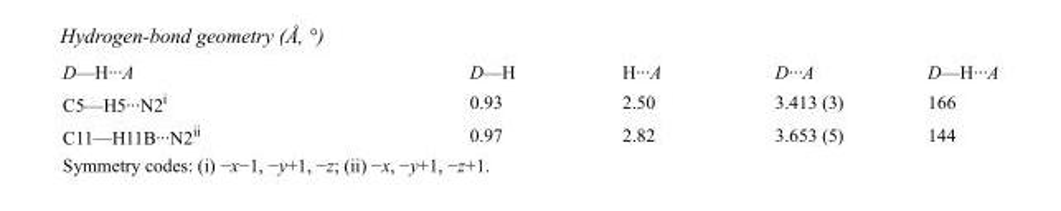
<table><tbody><tr><td>D—H···A</td><td>D—H</td><td>H···A</td><td>D···A</td><td>D—H···A</td></tr><tr><td>C5—H5···N2<sup>i</sup></td><td>0.93</td><td>2.50</td><td>3.413 (3)</td><td>166</td></tr><tr><td>C11—H11B···N2<sup>ii</sup></td><td>0.97</td><td>2.82</td><td>3.653 (5)</td><td>144</td></tr></tbody></table>